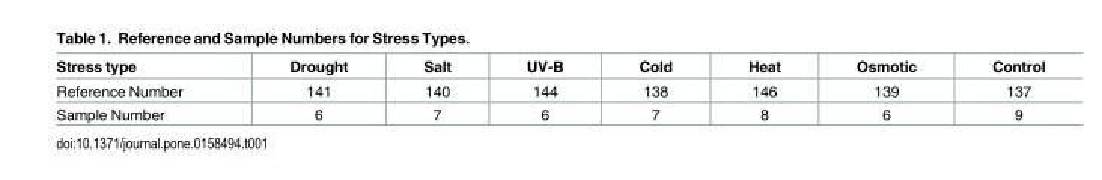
<table><thead><tr><td>Stress type</td><td>Drought</td><td>Salt</td><td>UV-B</td><td>Cold</td><td>Heat</td><td>Osmotic</td><td>Control</td></tr></thead><tbody><tr><td>Reference Number</td><td>141</td><td>140</td><td>144</td><td>138</td><td>146</td><td>139</td><td>137</td></tr><tr><td>Sample Number</td><td>6</td><td>7</td><td>6</td><td>7</td><td>8</td><td>6</td><td>9</td></tr></tbody></table>